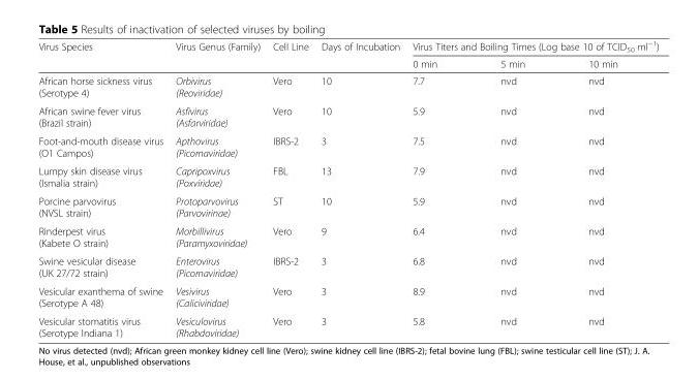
<table><thead><tr><td rowspan="2">Virus Species</td><td rowspan="2">Virus Genus (Family)</td><td rowspan="2">Cell Line</td><td rowspan="2">Days of Incubation</td><td colspan="3">Virus Titers and Boiling Times (Log base 10 of TCID<sub>50</sub> ml<sup>−1</sup>)</td></tr><tr><td>0 min</td><td>5 min</td><td>10 min</td></tr></thead><tbody><tr><td>African horse sickness virus (Serotype 4)</td><td>Orbivirus (Reoviridae)</td><td>Vero</td><td>10</td><td>7.7</td><td>nvd</td><td>nvd</td></tr><tr><td>African swine fever virus (Brazil strain)</td><td>Asfivirus (Asfarviridae)</td><td>Vero</td><td>10</td><td>5.9</td><td>nvd</td><td>nvd</td></tr><tr><td>Foot-and-mouth disease virus (O1 Campos)</td><td>Apthovirus (Picornaviridae)</td><td>IBRS-2</td><td>3</td><td>7.5</td><td>nvd</td><td>nvd</td></tr><tr><td>Lumpy skin disease virus (Ismalia strain)</td><td>Capripoxvirus (Poxviridae)</td><td>FBL</td><td>13</td><td>7.9</td><td>nvd</td><td>nvd</td></tr><tr><td>Porcine parvovirus (NVSL strain)</td><td>Protoparvovirus (Parvovirinae)</td><td>ST</td><td>10</td><td>5.9</td><td>nvd</td><td>nvd</td></tr><tr><td>Rinderpest virus (Kabete O strain)</td><td>Morbillivirus (Paramyxoviridae)</td><td>Vero</td><td>9</td><td>6.4</td><td>nvd</td><td>nvd</td></tr><tr><td>Swine vesicular disease (UK 27/72 strain)</td><td>Enterovirus (Picornaviridae)</td><td>IBRS-2</td><td>3</td><td>6.8</td><td>nvd</td><td>nvd</td></tr><tr><td>Vesicular exanthema of swine (Serotype A 48)</td><td>Vesivirus (Caliciviridae)</td><td>Vero</td><td>3</td><td>8.9</td><td>nvd</td><td>nvd</td></tr><tr><td>Vesicular stomatitis virus (Serotype Indiana 1)</td><td>Vesiculovirus (Rhabdoviridae)</td><td>Vero</td><td>3</td><td>5.8</td><td>nvd</td><td>nvd</td></tr></tbody></table>